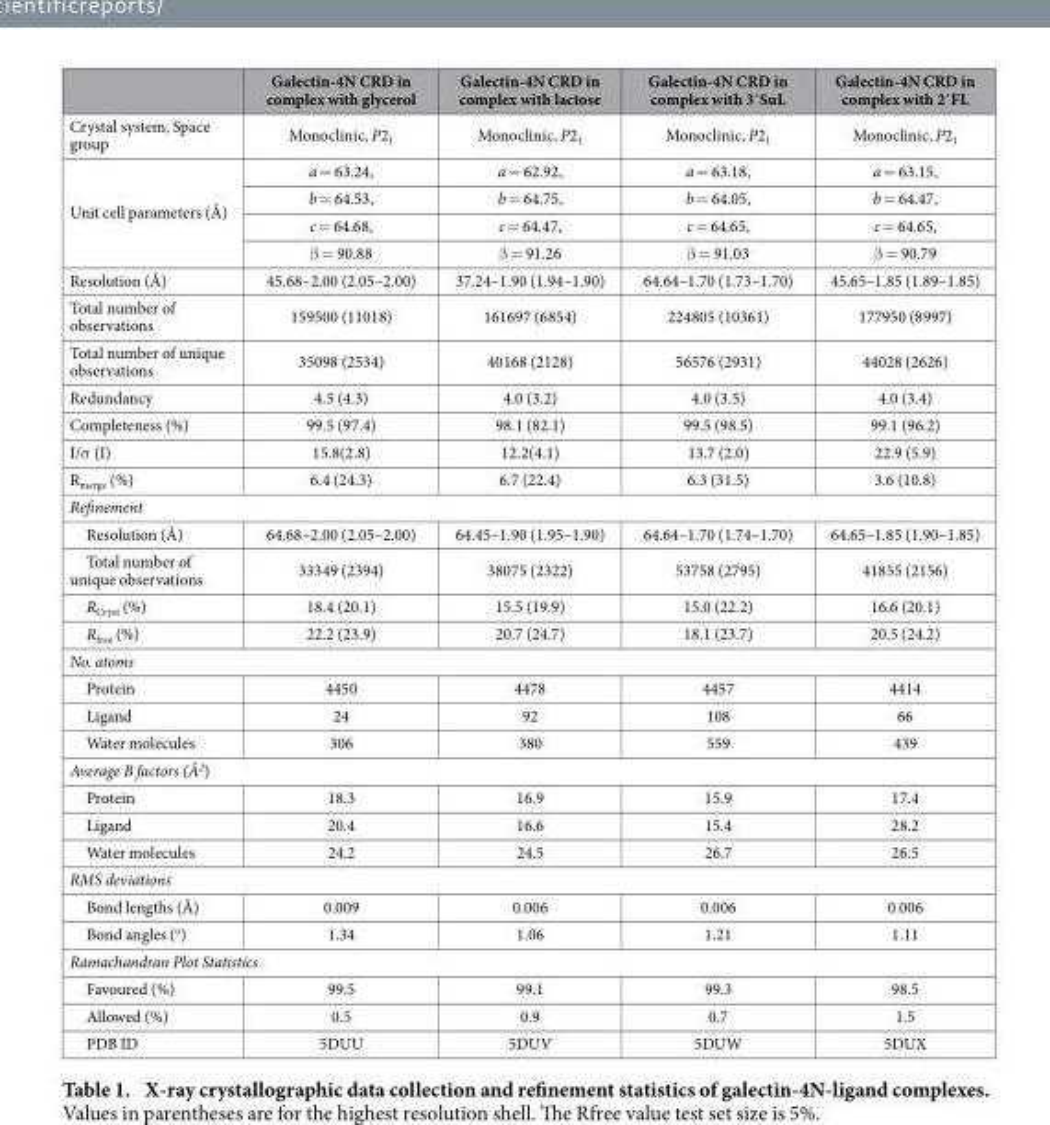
<table><thead><tr><td></td><td>Galectin-4N CRD in complex with glycerol</td><td>Galectin-4N CRD in complex with lactose</td><td>Galectin-4N CRD in complex with 3′ SuL</td><td>Galectin-4N CRD in complex with 2′ FL</td></tr></thead><tbody><tr><td>Crystal system, Space group</td><td>Monoclinic, P2<sub>1</sub></td><td>Monoclinic, P2<sub>1</sub></td><td>Monoclinic, P2<sub>1</sub></td><td>Monoclinic, P2<sub>1</sub></td></tr><tr><td rowspan="4">Unit cell parameters (Å)</td><td>a = 63.24,</td><td>a = 62.92,</td><td>a = 63.18,</td><td>a = 63.15,</td></tr><tr><td>b = 64.53,</td><td>b = 64.75,</td><td>b = 64.05,</td><td>b = 64.47,</td></tr><tr><td>c = 64.68,</td><td>c = 64.47,</td><td>c = 64.65,</td><td>c = 64.65,</td></tr><tr><td>β = 90.88</td><td>β = 91.26</td><td>β = 91.03</td><td>β = 90.79</td></tr><tr><td>Resolution (Å)</td><td>45.68–2.00 (2.05–2.00)</td><td>37.24–1.90 (1.94–1.90)</td><td>64.64–1.70 (1.73–1.70)</td><td>45.65–1.85 (1.89–1.85)</td></tr><tr><td>Total number of observations</td><td>159500 (11018)</td><td>161697 (6854)</td><td>224805 (10361)</td><td>177950 (8997)</td></tr><tr><td>Total number of unique observations</td><td>35098 (2534)</td><td>40168 (2128)</td><td>56576 (2931)</td><td>44028 (2626)</td></tr><tr><td>Redundancy</td><td>4.5 (4.3)</td><td>4.0 (3.2)</td><td>4.0 (3.5)</td><td>4.0 (3.4)</td></tr><tr><td>Completeness (%)</td><td>99.5 (97.4)</td><td>98.1 (82.1)</td><td>99.5 (98.5)</td><td>99.1 (96.2)</td></tr><tr><td>I/σ (I)</td><td>15.8(2.8)</td><td>12.2(4.1)</td><td>13.7 (2.0)</td><td>22.9 (5.9)</td></tr><tr><td>R<sub>merge</sub> (%)</td><td>6.4 (24.3)</td><td>6.7 (22.4)</td><td>6.3 (31.5)</td><td>3.6 (10.8)</td></tr><tr><td colspan="5">Refinement</td></tr><tr><td>Resolution (Å)</td><td>64.68–2.00 (2.05–2.00)</td><td>64.45–1.90 (1.95–1.90)</td><td>64.64–1.70 (1.74–1.70)</td><td>64.65–1.85 (1.90–1.85)</td></tr><tr><td>Total number of unique observations</td><td>33349 (2394)</td><td>38075 (2322)</td><td>53758 (2795)</td><td>41855 (2156)</td></tr><tr><td>R<sub>Cryst</sub> (%)</td><td>18.4 (20.1)</td><td>15.5 (19.9)</td><td>15.0 (22.2)</td><td>16.6 (20.1)</td></tr><tr><td>R<sub>free</sub> (%)</td><td>22.2 (23.9)</td><td>20.7 (24.7)</td><td>18.1 (23.7)</td><td>20.5 (24.2)</td></tr><tr><td colspan="5">No. atoms</td></tr><tr><td>Protein</td><td>4450</td><td>4478</td><td>4457</td><td>4414</td></tr><tr><td>Ligand</td><td>24</td><td>92</td><td>108</td><td>66</td></tr><tr><td>Water molecules</td><td>306</td><td>380</td><td>559</td><td>439</td></tr><tr><td colspan="5">Average B factors (Å<sup>2</sup>)</td></tr><tr><td>Protein</td><td>18.3</td><td>16.9</td><td>15.9</td><td>17.4</td></tr><tr><td>Ligand</td><td>20.4</td><td>16.6</td><td>15.4</td><td>28.2</td></tr><tr><td>Water molecules</td><td>24.2</td><td>24.5</td><td>26.7</td><td>26.5</td></tr><tr><td colspan="5">RMS deviations</td></tr><tr><td>Bond lengths (Å)</td><td>0.009</td><td>0.006</td><td>0.006</td><td>0.006</td></tr><tr><td>Bond angles (<sup>o</sup>)</td><td>1.34</td><td>1.06</td><td>1.21</td><td>1.11</td></tr><tr><td colspan="5">Ramachandran Plot Statistics</td></tr><tr><td>Favoured (%)</td><td>99.5</td><td>99.1</td><td>99.3</td><td>98.5</td></tr><tr><td>Allowed (%)</td><td>0.5</td><td>0.9</td><td>0.7</td><td>1.5</td></tr><tr><td>PDB ID</td><td>5DUU</td><td>5DUV</td><td>5DUW</td><td>5DUX</td></tr></tbody></table>